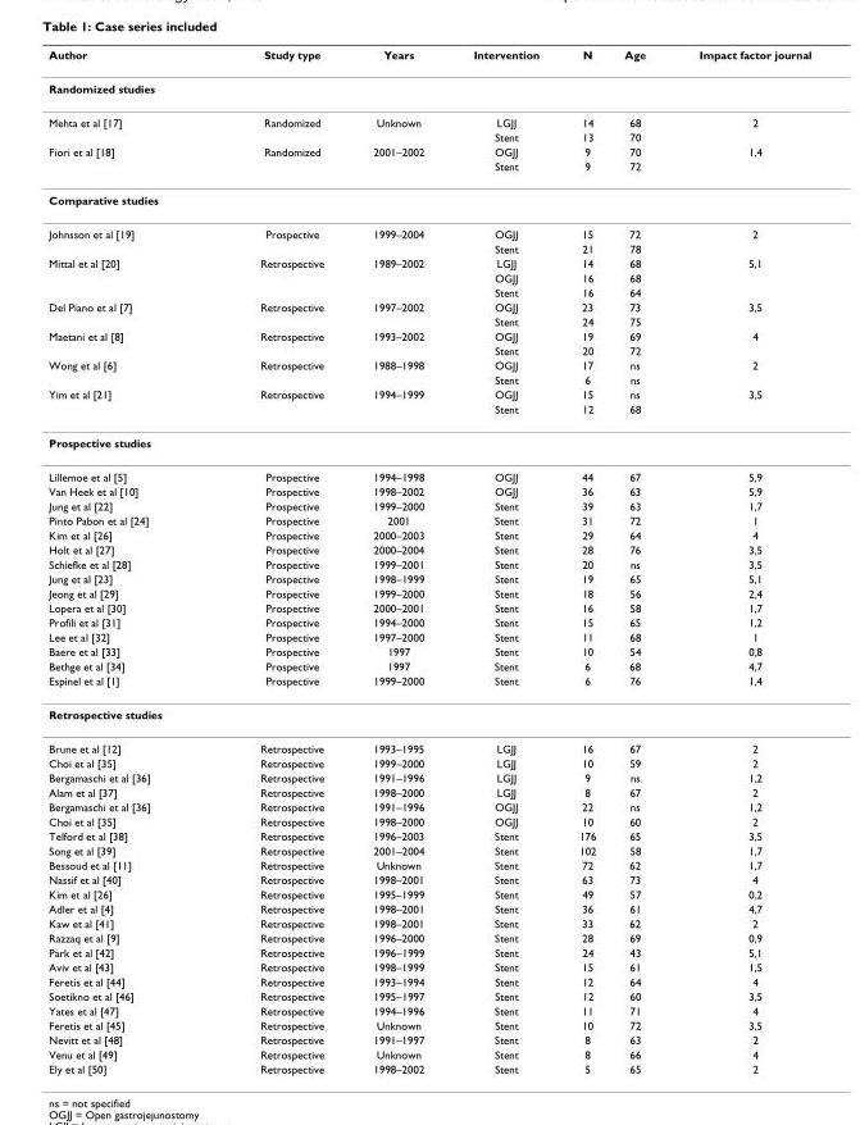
<table><thead><tr><td>Author</td><td>Study type</td><td>Years</td><td>Intervention</td><td>N</td><td>Age</td><td>Impact factor journal</td></tr></thead><tbody><tr><td colspan="7">Randomized studies</td></tr><tr><td rowspan="2">Mehta et al [17]</td><td>Randomized</td><td>Unknown</td><td>LGJJ</td><td>14</td><td>68</td><td>2</td></tr><tr><td></td><td></td><td>Stent</td><td>13</td><td>70</td><td></td></tr><tr><td rowspan="2">Fiori et al [18]</td><td>Randomized</td><td>2001–2002</td><td>OGJJ</td><td>9</td><td>70</td><td>1,4</td></tr><tr><td></td><td></td><td>Stent</td><td>9</td><td>72</td><td></td></tr><tr><td colspan="7">Comparative studies</td></tr><tr><td rowspan="2">Johnsson et al [19]</td><td>Prospective</td><td>1999–2004</td><td>OGJJ</td><td>15</td><td>72</td><td>2</td></tr><tr><td></td><td></td><td>Stent</td><td>21</td><td>78</td><td></td></tr><tr><td rowspan="3">Mittal et al [20]</td><td>Retrospective</td><td>1989–2002</td><td>LGJJ</td><td>14</td><td>68</td><td>5,1</td></tr><tr><td></td><td></td><td>OGJJ</td><td>16</td><td>68</td><td></td></tr><tr><td></td><td></td><td>Stent</td><td>16</td><td>64</td><td></td></tr><tr><td rowspan="2">Del Piano et al [7]</td><td>Retrospective</td><td>1997–2002</td><td>OGJJ</td><td>23</td><td>73</td><td>3,5</td></tr><tr><td></td><td></td><td>Stent</td><td>24</td><td>75</td><td></td></tr><tr><td rowspan="2">Maetani et al [8]</td><td>Retrospective</td><td>1993–2002</td><td>OGJJ</td><td>19</td><td>69</td><td>4</td></tr><tr><td></td><td></td><td>Stent</td><td>20</td><td>72</td><td></td></tr><tr><td rowspan="2">Wong et al [6]</td><td>Retrospective</td><td>1988–1998</td><td>OGJJ</td><td>17</td><td>ns</td><td>2</td></tr><tr><td></td><td></td><td>Stent</td><td>6</td><td>ns</td><td></td></tr><tr><td rowspan="2">Yim et al [21]</td><td>Retrospective</td><td>1994–1999</td><td>OGJJ</td><td>15</td><td>ns</td><td>3,5</td></tr><tr><td></td><td></td><td>Stent</td><td>12</td><td>68</td><td></td></tr><tr><td colspan="7">Prospective studies</td></tr><tr><td>Lillemoe et al [5]</td><td>Prospective</td><td>1994–1998</td><td>OGJJ</td><td>44</td><td>67</td><td>5,9</td></tr><tr><td>Van Heek et al [10]</td><td>Prospective</td><td>1998–2002</td><td>OGJJ</td><td>36</td><td>63</td><td>5,9</td></tr><tr><td>Jung et al [22]</td><td>Prospective</td><td>1999–2000</td><td>Stent</td><td>39</td><td>63</td><td>1,7</td></tr><tr><td>Pinto Pabon et al [24]</td><td>Prospective</td><td>2001</td><td>Stent</td><td>31</td><td>72</td><td>1</td></tr><tr><td>Kim et al [26]</td><td>Prospective</td><td>2000–2003</td><td>Stent</td><td>29</td><td>64</td><td>4</td></tr><tr><td>Holt et al [27]</td><td>Prospective</td><td>2000–2004</td><td>Stent</td><td>28</td><td>76</td><td>3,5</td></tr><tr><td>Schiefke et al [28]</td><td>Prospective</td><td>1999–2001</td><td>Stent</td><td>20</td><td>ns</td><td>3,5</td></tr><tr><td>Jung et al [23]</td><td>Prospective</td><td>1998–1999</td><td>Stent</td><td>19</td><td>65</td><td>5,1</td></tr><tr><td>Jeong et al [29]</td><td>Prospective</td><td>1999–2000</td><td>Stent</td><td>18</td><td>56</td><td>2,4</td></tr><tr><td>Lopera et al [30]</td><td>Prospective</td><td>2000–2001</td><td>Stent</td><td>16</td><td>58</td><td>1,7</td></tr><tr><td>Profili et al [31]</td><td>Prospective</td><td>1994–2000</td><td>Stent</td><td>15</td><td>65</td><td>1,2</td></tr><tr><td>Lee et al [32]</td><td>Prospective</td><td>1997–2000</td><td>Stent</td><td>11</td><td>68</td><td>1</td></tr><tr><td>Baere et al [33]</td><td>Prospective</td><td>1997</td><td>Stent</td><td>10</td><td>54</td><td>0,8</td></tr><tr><td>Bethge et al [34]</td><td>Prospective</td><td>1997</td><td>Stent</td><td>6</td><td>68</td><td>4,7</td></tr><tr><td>Espinel et al [1]</td><td>Prospective</td><td>1999–2000</td><td>Stent</td><td>6</td><td>76</td><td>1,4</td></tr><tr><td colspan="7">Retrospective studies</td></tr><tr><td>Brune et al [12]</td><td>Retrospective</td><td>1993–1995</td><td>LGJJ</td><td>16</td><td>67</td><td>2</td></tr><tr><td>Choi et al [35]</td><td>Retrospective</td><td>1999–2000</td><td>LGJJ</td><td>10</td><td>59</td><td>2</td></tr><tr><td>Bergamaschi et al [36]</td><td>Retrospective</td><td>1991–1996</td><td>LGJJ</td><td>9</td><td>ns</td><td>1,2</td></tr><tr><td>Alam et al [37]</td><td>Retrospective</td><td>1998–2000</td><td>LGJJ</td><td>8</td><td>67</td><td>2</td></tr><tr><td>Bergamaschi et al [36]</td><td>Retrospective</td><td>1991–1996</td><td>OGJJ</td><td>22</td><td>ns</td><td>1,2</td></tr><tr><td>Choi et al [35]</td><td>Retrospective</td><td>1998–2000</td><td>OGJJ</td><td>10</td><td>60</td><td>2</td></tr><tr><td>Telford et al [38]</td><td>Retrospective</td><td>1996–2003</td><td>Stent</td><td>176</td><td>65</td><td>3,5</td></tr><tr><td>Song et al [39]</td><td>Retrospective</td><td>2001–2004</td><td>Stent</td><td>102</td><td>58</td><td>1,7</td></tr><tr><td>Bessoud et al [11]</td><td>Retrospective</td><td>Unknown</td><td>Stent</td><td>72</td><td>62</td><td>1,7</td></tr><tr><td>Nassif et al [40]</td><td>Retrospective</td><td>1998–2001</td><td>Stent</td><td>63</td><td>73</td><td>4</td></tr><tr><td>Kim et al [26]</td><td>Retrospective</td><td>1995–1999</td><td>Stent</td><td>49</td><td>57</td><td>0,2</td></tr><tr><td>Adler et al [4]</td><td>Retrospective</td><td>1998–2001</td><td>Stent</td><td>36</td><td>61</td><td>4,7</td></tr><tr><td>Kaw et al [41]</td><td>Retrospective</td><td>1998–2001</td><td>Stent</td><td>33</td><td>62</td><td>2</td></tr><tr><td>Razzaq et al [9]</td><td>Retrospective</td><td>1996–2000</td><td>Stent</td><td>28</td><td>69</td><td>0,9</td></tr><tr><td>Park et al [42]</td><td>Retrospective</td><td>1996–1999</td><td>Stent</td><td>24</td><td>43</td><td>5,1</td></tr><tr><td>Aviv et al [43]</td><td>Retrospective</td><td>1998–1999</td><td>Stent</td><td>15</td><td>61</td><td>1,5</td></tr><tr><td>Feretis et al [44]</td><td>Retrospective</td><td>1993–1994</td><td>Stent</td><td>12</td><td>64</td><td>4</td></tr><tr><td>Soetikno et al [46]</td><td>Retrospective</td><td>1995–1997</td><td>Stent</td><td>12</td><td>60</td><td>3,5</td></tr><tr><td>Yates et al [47]</td><td>Retrospective</td><td>1994–1996</td><td>Stent</td><td>11</td><td>71</td><td>4</td></tr><tr><td>Feretis et al [45]</td><td>Retrospective</td><td>Unknown</td><td>Stent</td><td>10</td><td>72</td><td>3,5</td></tr><tr><td>Nevitt et al [48]</td><td>Retrospective</td><td>1991–1997</td><td>Stent</td><td>8</td><td>63</td><td>2</td></tr><tr><td>Venu et al [49]</td><td>Retrospective</td><td>Unknown</td><td>Stent</td><td>8</td><td>66</td><td>4</td></tr><tr><td>Ely et al [50]</td><td>Retrospective</td><td>1998–2002</td><td>Stent</td><td>5</td><td>65</td><td>2</td></tr></tbody></table>